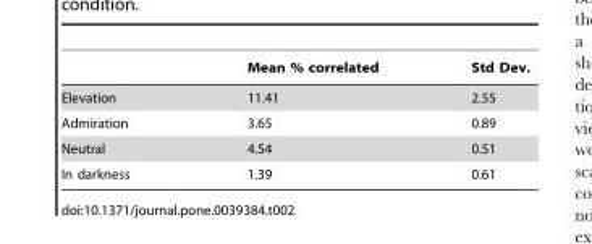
<table><thead><tr><td></td><td>Mean % correlated</td><td>Std Dev.</td></tr></thead><tbody><tr><td>Elevation</td><td>11.41</td><td>2.55</td></tr><tr><td>Admiration</td><td>3.65</td><td>0.89</td></tr><tr><td>Neutral</td><td>4.54</td><td>0.51</td></tr><tr><td>In darkness</td><td>1.39</td><td>0.61</td></tr></tbody></table>